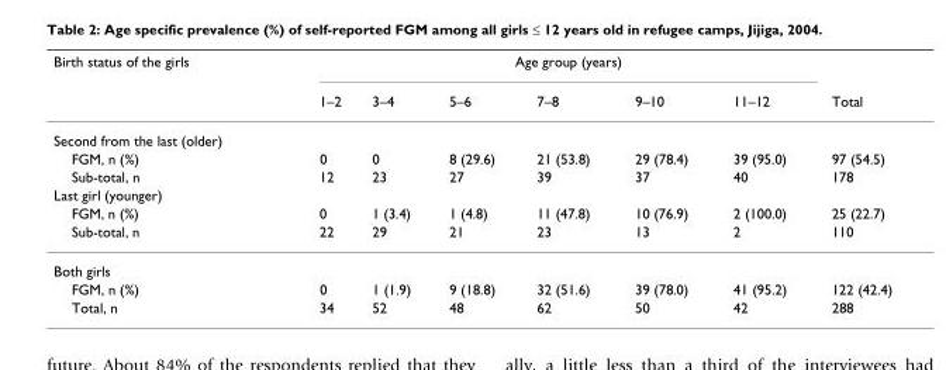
<table><thead><tr><td rowspan="2">Birth status of the girls</td><td colspan="6">Age group (years)</td><td rowspan="2">Total</td></tr><tr><td>1–2</td><td>3–4</td><td>5–6</td><td>7–8</td><td>9–10</td><td>11–12</td></tr></thead><tbody><tr><td colspan="8">Second from the last (older)</td></tr><tr><td>FGM, n (%)</td><td>0</td><td>0</td><td>8 (29.6)</td><td>21 (53.8)</td><td>29 (78.4)</td><td>39 (95.0)</td><td>97 (54.5)</td></tr><tr><td>Sub-total, n</td><td>12</td><td>23</td><td>27</td><td>39</td><td>37</td><td>40</td><td>178</td></tr><tr><td colspan="8">Last girl (younger)</td></tr><tr><td>FGM, n (%)</td><td>0</td><td>1 (3.4)</td><td>1 (4.8)</td><td>11 (47.8)</td><td>10 (76.9)</td><td>2 (100.0)</td><td>25 (22.7)</td></tr><tr><td>Sub-total, n</td><td>22</td><td>29</td><td>21</td><td>23</td><td>13</td><td>2</td><td>110</td></tr><tr><td colspan="8">Both girls</td></tr><tr><td>FGM, n (%)</td><td>0</td><td>1 (1.9)</td><td>9 (18.8)</td><td>32 (51.6)</td><td>39 (78.0)</td><td>41 (95.2)</td><td>122 (42.4)</td></tr><tr><td>Total, n</td><td>34</td><td>52</td><td>48</td><td>62</td><td>50</td><td>42</td><td>288</td></tr></tbody></table>